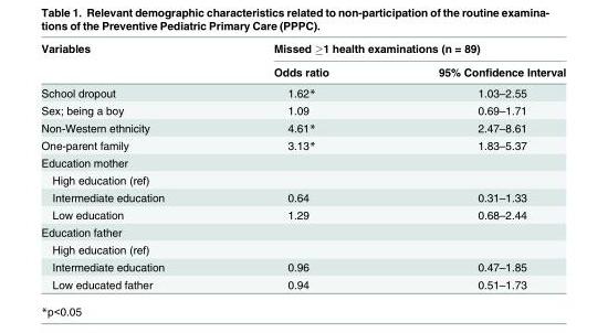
<table><thead><tr><td rowspan="2">Variables</td><td colspan="2">Missed ≥1 health examinations (n = 89)</td></tr><tr><td>Odds ratio</td><td>95% Confidence Interval</td></tr></thead><tbody><tr><td>School dropout</td><td>1.62*</td><td>1.03–2.55</td></tr><tr><td>Sex; being a boy</td><td>1.09</td><td>0.69–1.71</td></tr><tr><td>Non-Western ethnicity</td><td>4.61*</td><td>2.47–8.61</td></tr><tr><td>One-parent family</td><td>3.13*</td><td>1.83–5.37</td></tr><tr><td colspan="3">Education mother</td></tr><tr><td colspan="3">High education (ref)</td></tr><tr><td>Intermediate education</td><td>0.64</td><td>0.31–1.33</td></tr><tr><td>Low education</td><td>1.29</td><td>0.68–2.44</td></tr><tr><td colspan="3">Education father</td></tr><tr><td colspan="3">High education (ref)</td></tr><tr><td>Intermediate education</td><td>0.96</td><td>0.47–1.85</td></tr><tr><td>Low educated father</td><td>0.94</td><td>0.51–1.73</td></tr></tbody></table>